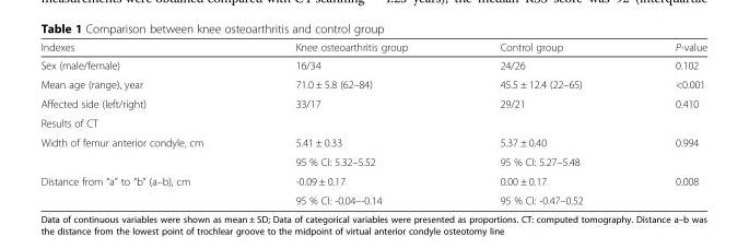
<table><thead><tr><td>Indexes</td><td>Knee osteoarthritis group</td><td>Control group</td><td>P-value</td></tr></thead><tbody><tr><td>Sex (male/female)</td><td>16/34</td><td>24/26</td><td>0.102</td></tr><tr><td>Mean age (range), year</td><td>71.0 ± 5.8 (62–84)</td><td>45.5 ± 12.4 (22–65)</td><td>&lt;0.001</td></tr><tr><td>Affected side (left/right)</td><td>33/17</td><td>29/21</td><td>0.410</td></tr><tr><td colspan="4">Results of CT</td></tr><tr><td rowspan="2">Width of femur anterior condyle, cm</td><td>5.41 ± 0.33</td><td>5.37 ± 0.40</td><td rowspan="2">0.994</td></tr><tr><td>95 % CI: 5.32–5.52</td><td>95 % CI: 5.27–5.48</td></tr><tr><td rowspan="2">Distance from “a” to “b” (a–b), cm</td><td>-0.09 ± 0.17</td><td>0.00 ± 0.17</td><td rowspan="2">0.008</td></tr><tr><td>95 % CI: -0.04–-0.14</td><td>95 % CI: -0.47–0.52</td></tr></tbody></table>